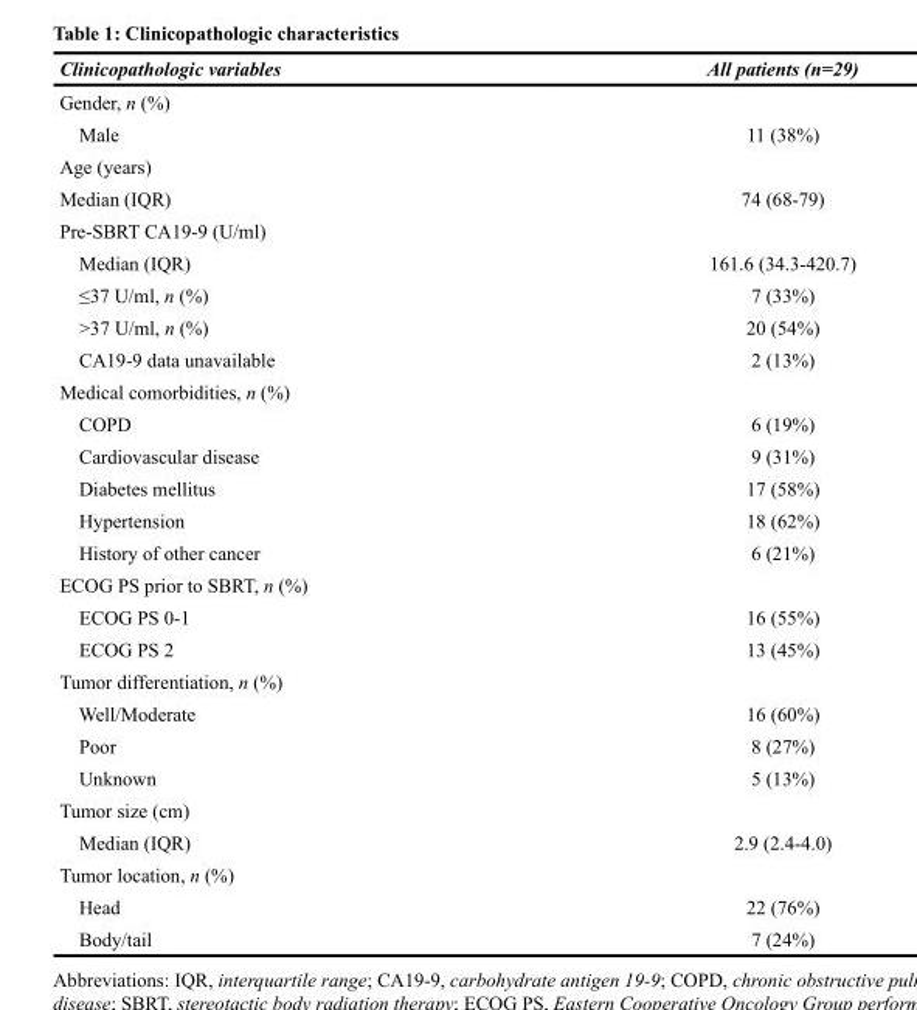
<table><thead><tr><td>Clinicopathologic variables</td><td>All patients (n=29)</td></tr></thead><tbody><tr><td colspan="2">Gender, n (%)</td></tr><tr><td>Male</td><td>11 (38%)</td></tr><tr><td colspan="2">Age (years)</td></tr><tr><td>Median (IQR)</td><td>74 (68-79)</td></tr><tr><td colspan="2">Pre-SBRT CA19-9 (U/ml)</td></tr><tr><td>Median (IQR)</td><td>161.6 (34.3-420.7)</td></tr><tr><td>≤37 U/ml, n (%)</td><td>7 (33%)</td></tr><tr><td>&gt;37 U/ml, n (%)</td><td>20 (54%)</td></tr><tr><td>CA19-9 data unavailable</td><td>2 (13%)</td></tr><tr><td colspan="2">Medical comorbidities, n (%)</td></tr><tr><td>COPD</td><td>6 (19%)</td></tr><tr><td>Cardiovascular disease</td><td>9 (31%)</td></tr><tr><td>Diabetes mellitus</td><td>17 (58%)</td></tr><tr><td>Hypertension</td><td>18 (62%)</td></tr><tr><td>History of other cancer</td><td>6 (21%)</td></tr><tr><td colspan="2">ECOG PS prior to SBRT, n (%)</td></tr><tr><td>ECOG PS 0-1</td><td>16 (55%)</td></tr><tr><td>ECOG PS 2</td><td>13 (45%)</td></tr><tr><td colspan="2">Tumor differentiation, n (%)</td></tr><tr><td>Well/Moderate</td><td>16 (60%)</td></tr><tr><td>Poor</td><td>8 (27%)</td></tr><tr><td>Unknown</td><td>5 (13%)</td></tr><tr><td colspan="2">Tumor size (cm)</td></tr><tr><td>Median (IQR)</td><td>2.9 (2.4-4.0)</td></tr><tr><td colspan="2">Tumor location, n (%)</td></tr><tr><td>Head</td><td>22 (76%)</td></tr><tr><td>Body/tail</td><td>7 (24%)</td></tr></tbody></table>